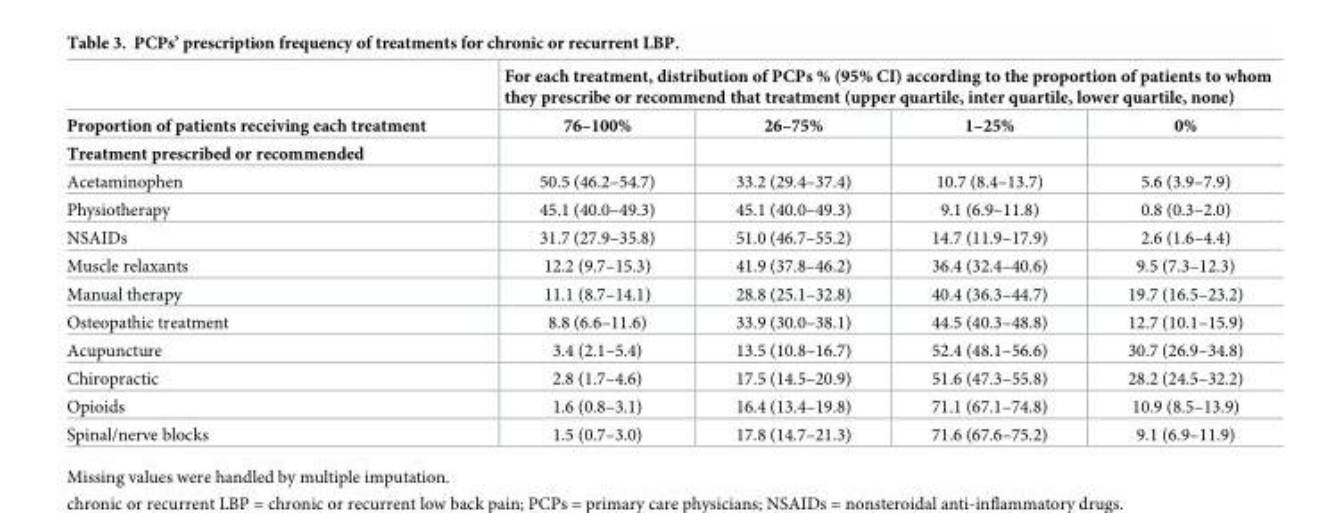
<table><thead><tr><td rowspan="3">Proportion of patients receiving each treatment Treatment prescribed or recommended</td><td colspan="4">For each treatment, distribution of PCPs % (95% CI) according to the proportion of patients to whom they prescribe or recommend that treatment (upper quartile, inter quartile, lower quartile, none)</td></tr><tr><td rowspan="2">76–100%</td><td rowspan="2">26–75%</td><td rowspan="2">1–25%</td><td rowspan="2">0%</td></tr><tr></tr></thead><tbody><tr><td>Acetaminophen</td><td>50.5 (46.2–54.7)</td><td>33.2 (29.4–37.4)</td><td>10.7 (8.4–13.7)</td><td>5.6 (3.9–7.9)</td></tr><tr><td>Physiotherapy</td><td>45.1 (40.0–49.3)</td><td>45.1 (40.0–49.3)</td><td>9.1 (6.9–11.8)</td><td>0.8 (0.3–2.0)</td></tr><tr><td>NSAIDs</td><td>31.7 (27.9–35.8)</td><td>51.0 (46.7–55.2)</td><td>14.7 (11.9–17.9)</td><td>2.6 (1.6–4.4)</td></tr><tr><td>Muscle relaxants</td><td>12.2 (9.7–15.3)</td><td>41.9 (37.8–46.2)</td><td>36.4 (32.4–40.6)</td><td>9.5 (7.3–12.3)</td></tr><tr><td>Manual therapy</td><td>11.1 (8.7–14.1)</td><td>28.8 (25.1–32.8)</td><td>40.4 (36.3–44.7)</td><td>19.7 (16.5–23.2)</td></tr><tr><td>Osteopathic treatment</td><td>8.8 (6.6–11.6)</td><td>33.9 (30.0–38.1)</td><td>44.5 (40.3–48.8)</td><td>12.7 (10.1–15.9)</td></tr><tr><td>Acupuncture</td><td>3.4 (2.1–5.4)</td><td>13.5 (10.8–16.7)</td><td>52.4 (48.1–56.6)</td><td>30.7 (26.9–34.8)</td></tr><tr><td>Chiropractic</td><td>2.8 (1.7–4.6)</td><td>17.5 (14.5–20.9)</td><td>51.6 (47.3–55.8)</td><td>28.2 (24.5–32.2)</td></tr><tr><td>Opioids</td><td>1.6 (0.8–3.1)</td><td>16.4 (13.4–19.8)</td><td>71.1 (67.1–74.8)</td><td>10.9 (8.5–13.9)</td></tr><tr><td>Spinal/nerve blocks</td><td>1.5 (0.7–3.0)</td><td>17.8 (14.7–21.3)</td><td>71.6 (67.6–75.2)</td><td>9.1 (6.9–11.9)</td></tr></tbody></table>